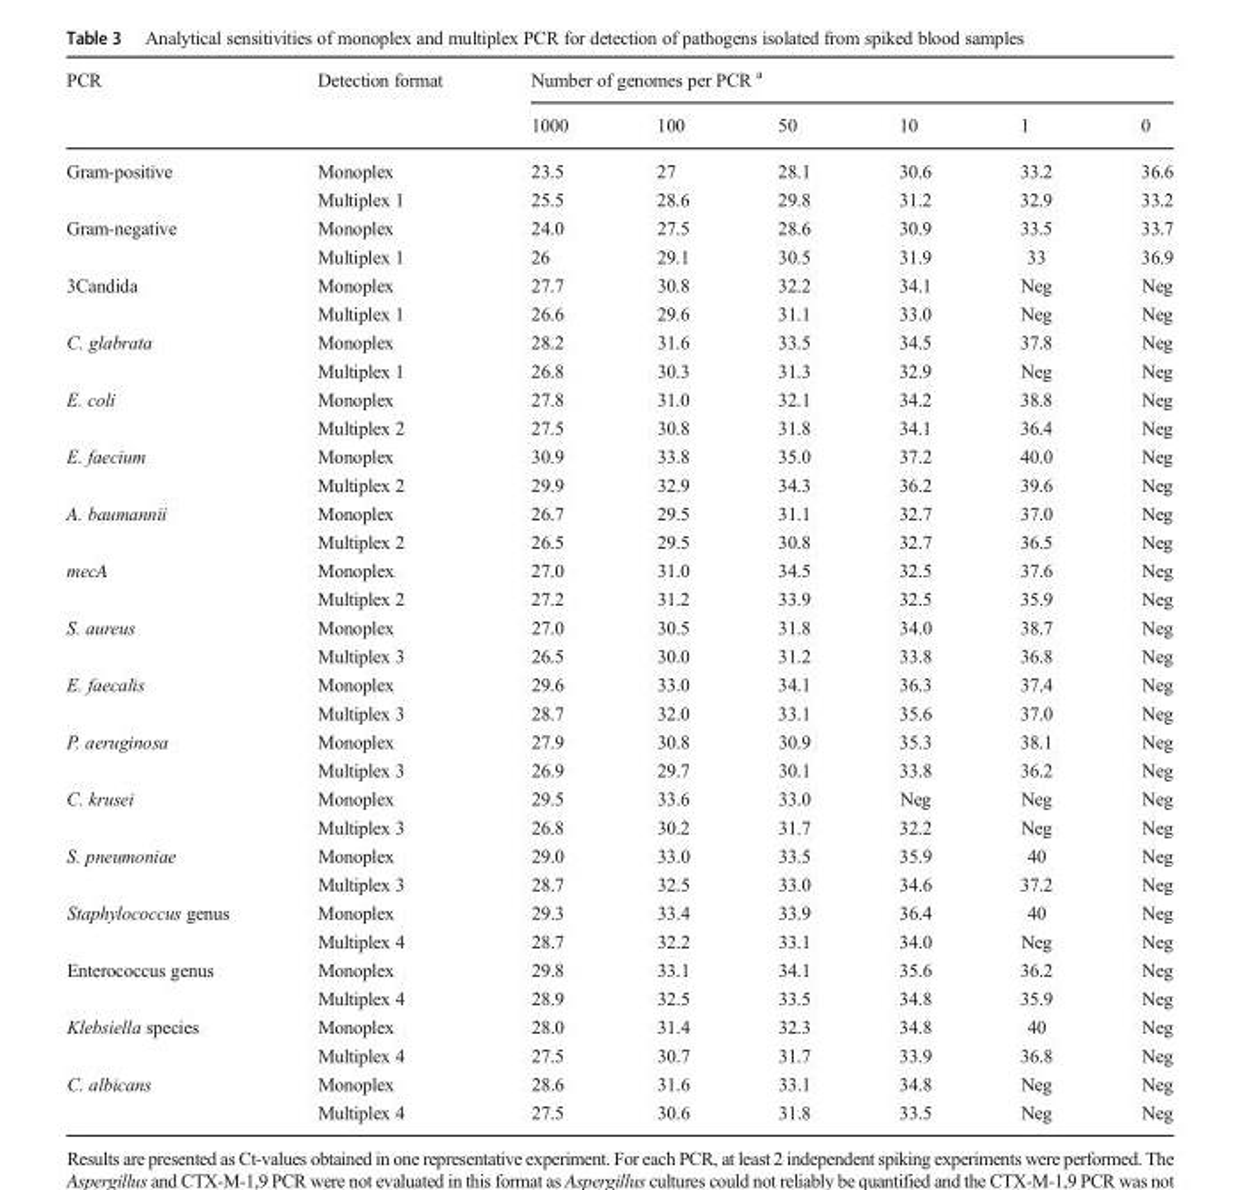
<table><thead><tr><td rowspan="2">PCR</td><td rowspan="2">Detection format</td><td colspan="6">Number of genomes per PCR <sup>a</sup></td></tr><tr><td>1000</td><td>100</td><td>50</td><td>10</td><td>1</td><td>0</td></tr></thead><tbody><tr><td rowspan="2">Gram-positive</td><td>Monoplex</td><td>23.5</td><td>27</td><td>28.1</td><td>30.6</td><td>33.2</td><td>36.6</td></tr><tr><td>Multiplex 1</td><td>25.5</td><td>28.6</td><td>29.8</td><td>31.2</td><td>32.9</td><td>33.2</td></tr><tr><td rowspan="2">Gram-negative</td><td>Monoplex</td><td>24.0</td><td>27.5</td><td>28.6</td><td>30.9</td><td>33.5</td><td>33.7</td></tr><tr><td>Multiplex 1</td><td>26</td><td>29.1</td><td>30.5</td><td>31.9</td><td>33</td><td>36.9</td></tr><tr><td rowspan="2">3Candida</td><td>Monoplex</td><td>27.7</td><td>30.8</td><td>32.2</td><td>34.1</td><td>Neg</td><td>Neg</td></tr><tr><td>Multiplex 1</td><td>26.6</td><td>29.6</td><td>31.1</td><td>33.0</td><td>Neg</td><td>Neg</td></tr><tr><td rowspan="2">C. glabrata</td><td>Monoplex</td><td>28.2</td><td>31.6</td><td>33.5</td><td>34.5</td><td>37.8</td><td>Neg</td></tr><tr><td>Multiplex 1</td><td>26.8</td><td>30.3</td><td>31.3</td><td>32.9</td><td>Neg</td><td>Neg</td></tr><tr><td rowspan="2">E. coli</td><td>Monoplex</td><td>27.8</td><td>31.0</td><td>32.1</td><td>34.2</td><td>38.8</td><td>Neg</td></tr><tr><td>Multiplex 2</td><td>27.5</td><td>30.8</td><td>31.8</td><td>34.1</td><td>36.4</td><td>Neg</td></tr><tr><td rowspan="2">E. faecium</td><td>Monoplex</td><td>30.9</td><td>33.8</td><td>35.0</td><td>37.2</td><td>40.0</td><td>Neg</td></tr><tr><td>Multiplex 2</td><td>29.9</td><td>32.9</td><td>34.3</td><td>36.2</td><td>39.6</td><td>Neg</td></tr><tr><td rowspan="2">A. baumannii</td><td>Monoplex</td><td>26.7</td><td>29.5</td><td>31.1</td><td>32.7</td><td>37.0</td><td>Neg</td></tr><tr><td>Multiplex 2</td><td>26.5</td><td>29.5</td><td>30.8</td><td>32.7</td><td>36.5</td><td>Neg</td></tr><tr><td rowspan="2">mecA</td><td>Monoplex</td><td>27.0</td><td>31.0</td><td>34.5</td><td>32.5</td><td>37.6</td><td>Neg</td></tr><tr><td>Multiplex 2</td><td>27.2</td><td>31.2</td><td>33.9</td><td>32.5</td><td>35.9</td><td>Neg</td></tr><tr><td rowspan="2">S. aureus</td><td>Monoplex</td><td>27.0</td><td>30.5</td><td>31.8</td><td>34.0</td><td>38.7</td><td>Neg</td></tr><tr><td>Multiplex 3</td><td>26.5</td><td>30.0</td><td>31.2</td><td>33.8</td><td>36.8</td><td>Neg</td></tr><tr><td rowspan="2">E. faecalis</td><td>Monoplex</td><td>29.6</td><td>33.0</td><td>34.1</td><td>36.3</td><td>37.4</td><td>Neg</td></tr><tr><td>Multiplex 3</td><td>28.7</td><td>32.0</td><td>33.1</td><td>35.6</td><td>37.0</td><td>Neg</td></tr><tr><td rowspan="2">P. aeruginosa</td><td>Monoplex</td><td>27.9</td><td>30.8</td><td>30.9</td><td>35.3</td><td>38.1</td><td>Neg</td></tr><tr><td>Multiplex 3</td><td>26.9</td><td>29.7</td><td>30.1</td><td>33.8</td><td>36.2</td><td>Neg</td></tr><tr><td rowspan="2">C. krusei</td><td>Monoplex</td><td>29.5</td><td>33.6</td><td>33.0</td><td>Neg</td><td>Neg</td><td>Neg</td></tr><tr><td>Multiplex 3</td><td>26.8</td><td>30.2</td><td>31.7</td><td>32.2</td><td>Neg</td><td>Neg</td></tr><tr><td rowspan="2">S. pneumoniae</td><td>Monoplex</td><td>29.0</td><td>33.0</td><td>33.5</td><td>35.9</td><td>40</td><td>Neg</td></tr><tr><td>Multiplex 3</td><td>28.7</td><td>32.5</td><td>33.0</td><td>34.6</td><td>37.2</td><td>Neg</td></tr><tr><td rowspan="2">Staphylococcus genus</td><td>Monoplex</td><td>29.3</td><td>33.4</td><td>33.9</td><td>36.4</td><td>40</td><td>Neg</td></tr><tr><td>Multiplex 4</td><td>28.7</td><td>32.2</td><td>33.1</td><td>34.0</td><td>Neg</td><td>Neg</td></tr><tr><td rowspan="2">Enterococcus genus</td><td>Monoplex</td><td>29.8</td><td>33.1</td><td>34.1</td><td>35.6</td><td>36.2</td><td>Neg</td></tr><tr><td>Multiplex 4</td><td>28.9</td><td>32.5</td><td>33.5</td><td>34.8</td><td>35.9</td><td>Neg</td></tr><tr><td rowspan="2">Klebsiella species</td><td>Monoplex</td><td>28.0</td><td>31.4</td><td>32.3</td><td>34.8</td><td>40</td><td>Neg</td></tr><tr><td>Multiplex 4</td><td>27.5</td><td>30.7</td><td>31.7</td><td>33.9</td><td>36.8</td><td>Neg</td></tr><tr><td rowspan="2">C. albicans</td><td>Monoplex</td><td>28.6</td><td>31.6</td><td>33.1</td><td>34.8</td><td>Neg</td><td>Neg</td></tr><tr><td>Multiplex 4</td><td>27.5</td><td>30.6</td><td>31.8</td><td>33.5</td><td>Neg</td><td>Neg</td></tr></tbody></table>